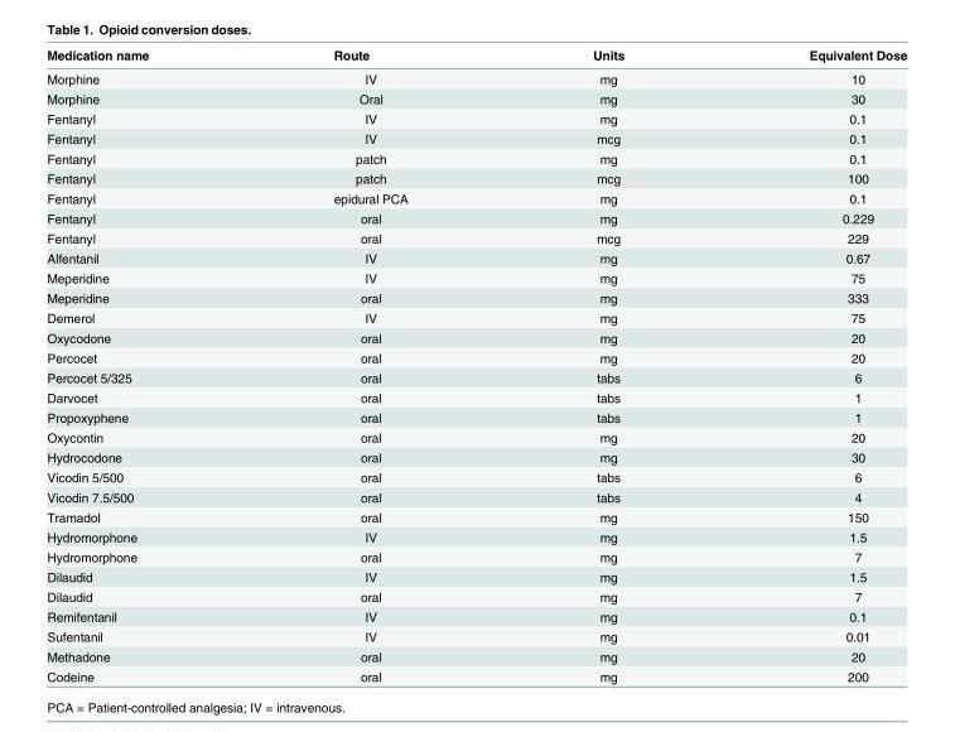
<table><thead><tr><td>Medication name</td><td>Route</td><td>Units</td><td>Equivalent Dose</td></tr></thead><tbody><tr><td>Morphine</td><td>IV</td><td>mg</td><td>10</td></tr><tr><td>Morphine</td><td>Oral</td><td>mg</td><td>30</td></tr><tr><td>Fentanyl</td><td>IV</td><td>mg</td><td>0.1</td></tr><tr><td>Fentanyl</td><td>IV</td><td>mcg</td><td>0.1</td></tr><tr><td>Fentanyl</td><td>patch</td><td>mg</td><td>0.1</td></tr><tr><td>Fentanyl</td><td>patch</td><td>mcg</td><td>100</td></tr><tr><td>Fentanyl</td><td>epidural PCA</td><td>mg</td><td>0.1</td></tr><tr><td>Fentanyl</td><td>oral</td><td>mg</td><td>0.229</td></tr><tr><td>Fentanyl</td><td>oral</td><td>mcg</td><td>229</td></tr><tr><td>Alfentanil</td><td>IV</td><td>mg</td><td>0.67</td></tr><tr><td>Meperidine</td><td>IV</td><td>mg</td><td>75</td></tr><tr><td>Meperidine</td><td>oral</td><td>mg</td><td>333</td></tr><tr><td>Demerol</td><td>IV</td><td>mg</td><td>75</td></tr><tr><td>Oxycodone</td><td>oral</td><td>mg</td><td>20</td></tr><tr><td>Percocet</td><td>oral</td><td>mg</td><td>20</td></tr><tr><td>Percocet 5/325</td><td>oral</td><td>tabs</td><td>6</td></tr><tr><td>Darvocet</td><td>oral</td><td>tabs</td><td>1</td></tr><tr><td>Propoxyphene</td><td>oral</td><td>tabs</td><td>1</td></tr><tr><td>Oxycontin</td><td>oral</td><td>mg</td><td>20</td></tr><tr><td>Hydrocodone</td><td>oral</td><td>mg</td><td>30</td></tr><tr><td>Vicodin 5/500</td><td>oral</td><td>tabs</td><td>6</td></tr><tr><td>Vicodin 7.5/500</td><td>oral</td><td>tabs</td><td>4</td></tr><tr><td>Tramadol</td><td>oral</td><td>mg</td><td>150</td></tr><tr><td>Hydromorphone</td><td>IV</td><td>mg</td><td>1.5</td></tr><tr><td>Hydromorphone</td><td>oral</td><td>mg</td><td>7</td></tr><tr><td>Dilaudid</td><td>IV</td><td>mg</td><td>1.5</td></tr><tr><td>Dilaudid</td><td>oral</td><td>mg</td><td>7</td></tr><tr><td>Remifentanil</td><td>IV</td><td>mg</td><td>0.1</td></tr><tr><td>Sufentanil</td><td>IV</td><td>mg</td><td>0.01</td></tr><tr><td>Methadone</td><td>oral</td><td>mg</td><td>20</td></tr><tr><td>Codeine</td><td>oral</td><td>mg</td><td>200</td></tr></tbody></table>